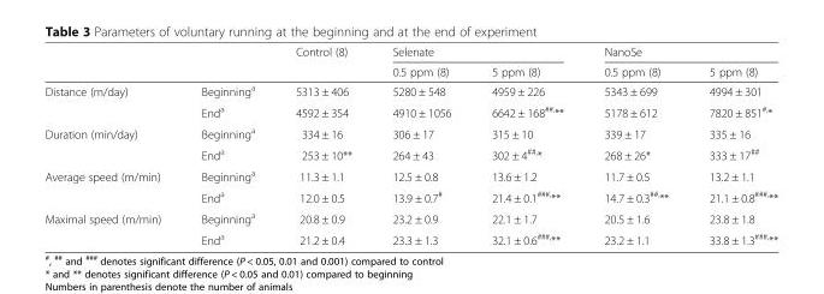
<table><thead><tr><td rowspan="2"></td><td rowspan="2"></td><td rowspan="2">Control (8)</td><td colspan="2">Selenate</td><td colspan="2">NanoSe</td></tr><tr><td>0.5 ppm (8)</td><td>5 ppm (8)</td><td>0.5 ppm (8)</td><td>5 ppm (8)</td></tr></thead><tbody><tr><td rowspan="2">Distance (m/day)</td><td>Beginning<sup>a</sup></td><td>5313 ± 406</td><td>5280 ± 548</td><td>4959 ± 226</td><td>5343 ± 699</td><td>4994 ± 301</td></tr><tr><td>End<sup>a</sup></td><td>4592 ± 354</td><td>4910 ± 1056</td><td>6642 ± 168<sup>##,</sup>**</td><td>5178 ± 612</td><td>7820 ± 851<sup>#,</sup>*</td></tr><tr><td rowspan="2">Duration (min/day)</td><td>Beginning<sup>a</sup></td><td>334 ± 16</td><td>306 ± 17</td><td>315 ± 10</td><td>339 ± 17</td><td>335 ± 16</td></tr><tr><td>End<sup>a</sup></td><td>253 ± 10**</td><td>264 ± 43</td><td>302 ± 4<sup>##,</sup>*</td><td>268 ± 26*</td><td>333 ± 17<sup>##</sup></td></tr><tr><td rowspan="2">Average speed (m/min)</td><td>Beginning<sup>a</sup></td><td>11.3 ± 1.1</td><td>12.5 ± 0.8</td><td>13.6 ± 1.2</td><td>11.7 ± 0.5</td><td>13.2 ± 1.1</td></tr><tr><td>End<sup>a</sup></td><td>12.0 ± 0.5</td><td>13.9 ± 0.7<sup>#</sup></td><td>21.4 ± 0.1<sup>###,</sup>**</td><td>14.7 ± 0.3<sup>##,</sup>**</td><td>21.1 ± 0.8<sup>###,</sup>**</td></tr><tr><td rowspan="2">Maximal speed (m/min)</td><td>Beginning<sup>a</sup></td><td>20.8 ± 0.9</td><td>23.2 ± 0.9</td><td>22.1 ± 1.7</td><td>20.5 ± 1.6</td><td>23.8 ± 1.8</td></tr><tr><td>End<sup>a</sup></td><td>21.2 ± 0.4</td><td>23.3 ± 1.3</td><td>32.1 ± 0.6<sup>###,</sup>**</td><td>23.2 ± 1.1</td><td>33.8 ± 1.3<sup>###,</sup>**</td></tr></tbody></table>